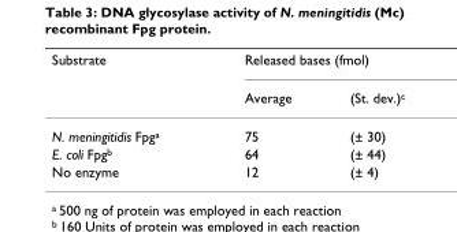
<table><thead><tr><td rowspan="2">Substrate</td><td colspan="2">Released bases (fmol)</td></tr><tr><td>Average</td><td>(St. dev.)<sup>c</sup></td></tr></thead><tbody><tr><td>N. meningitidis Fpg<sup>a</sup></td><td>75</td><td>(± 30)</td></tr><tr><td>E. coli Fpg<sup>b</sup></td><td>64</td><td>(± 44)</td></tr><tr><td>No enzyme</td><td>12</td><td>(± 4)</td></tr></tbody></table>